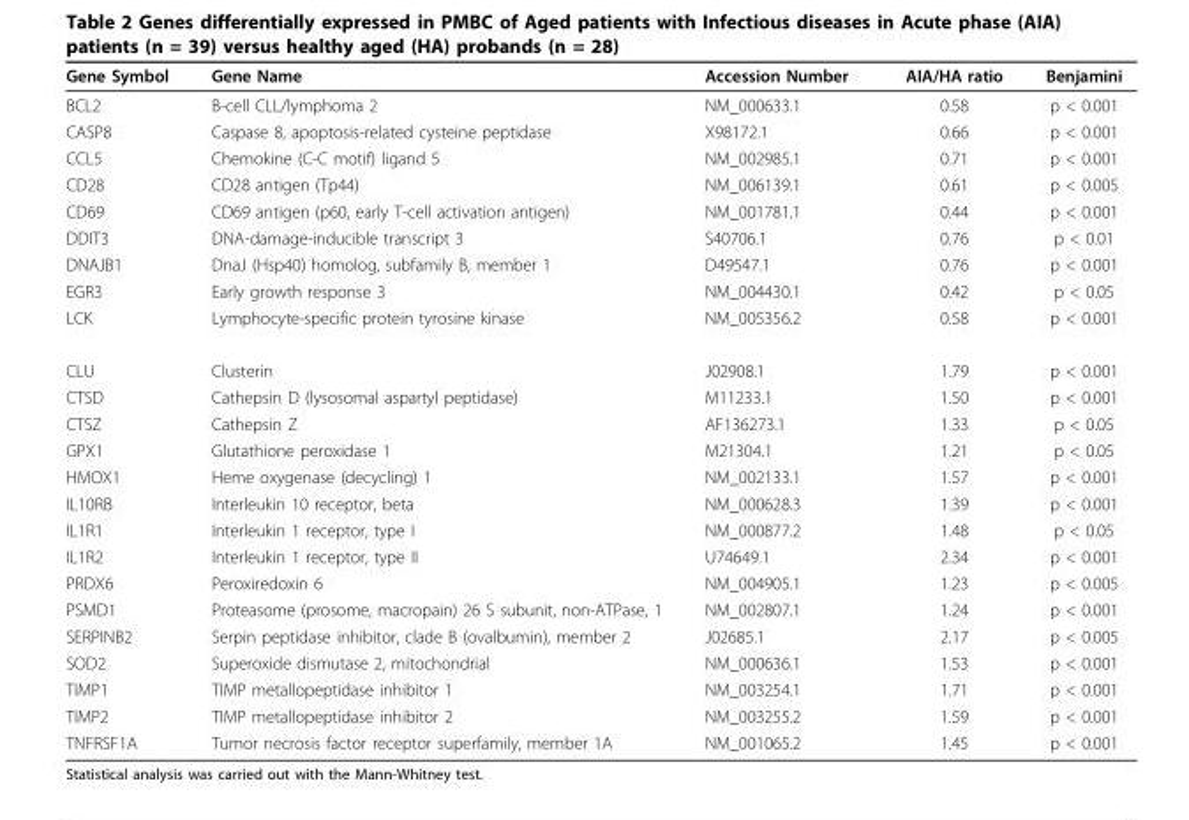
<table><thead><tr><td>Gene Symbol</td><td>Gene Name</td><td>Accession Number</td><td>AIA/HA ratio</td><td>Benjamini</td></tr></thead><tbody><tr><td>BCL2</td><td>B-cell CLL/lymphoma 2</td><td>NM_000633.1</td><td>0.58</td><td>p &lt; 0.001</td></tr><tr><td>CASP8</td><td>Caspase 8, apoptosis-related cysteine peptidase</td><td>X98172.1</td><td>0.66</td><td>p &lt; 0.001</td></tr><tr><td>CCL5</td><td>Chemokine (C-C motif) ligand 5</td><td>NM_002985.1</td><td>0.71</td><td>p &lt; 0.001</td></tr><tr><td>CD28</td><td>CD28 antigen (Tp44)</td><td>NM_006139.1</td><td>0.61</td><td>p &lt; 0.005</td></tr><tr><td>CD69</td><td>CD69 antigen (p60, early T-cell activation antigen)</td><td>NM_001781.1</td><td>0.44</td><td>p &lt; 0.001</td></tr><tr><td>DDIT3</td><td>DNA-damage-inducible transcript 3</td><td>S40706.1</td><td>0.76</td><td>p &lt; 0.01</td></tr><tr><td>DNAJB1</td><td>DnaJ (Hsp40) homolog, subfamily B, member 1</td><td>D49547.1</td><td>0.76</td><td>p &lt; 0.001</td></tr><tr><td>EGR3</td><td>Early growth response 3</td><td>NM_004430.1</td><td>0.42</td><td>p &lt; 0.05</td></tr><tr><td>LCK</td><td>Lymphocyte-specific protein tyrosine kinase</td><td>NM_005356.2</td><td>0.58</td><td>p &lt; 0.001</td></tr><tr><td>CLU</td><td>Clusterin</td><td>J02908.1</td><td>1.79</td><td>p &lt; 0.001</td></tr><tr><td>CTSD</td><td>Cathepsin D (lysosomal aspartyl peptidase)</td><td>M11233.1</td><td>1.50</td><td>p &lt; 0.001</td></tr><tr><td>CTSZ</td><td>Cathepsin Z</td><td>AF136273.1</td><td>1.33</td><td>p &lt; 0.05</td></tr><tr><td>GPX1</td><td>Glutathione peroxidase 1</td><td>M21304.1</td><td>1.21</td><td>p &lt; 0.05</td></tr><tr><td>HMOX1</td><td>Heme oxygenase (decycling) 1</td><td>NM_002133.1</td><td>1.57</td><td>p &lt; 0.001</td></tr><tr><td>IL10RB</td><td>Interleukin 10 receptor, beta</td><td>NM_000628.3</td><td>1.39</td><td>p &lt; 0.001</td></tr><tr><td>IL1R1</td><td>Interleukin 1 receptor, type I</td><td>NM_000877.2</td><td>1.48</td><td>p &lt; 0.05</td></tr><tr><td>IL1R2</td><td>Interleukin 1 receptor, type II</td><td>U74649.1</td><td>2.34</td><td>p &lt; 0.001</td></tr><tr><td>PRDX6</td><td>Peroxiredoxin 6</td><td>NM_004905.1</td><td>1.23</td><td>p &lt; 0.005</td></tr><tr><td>PSMD1</td><td>Proteasome (prosome, macropain) 26 S subunit, non-ATPase, 1</td><td>NM_002807.1</td><td>1.24</td><td>p &lt; 0.001</td></tr><tr><td>SERPINB2</td><td>Serpin peptidase inhibitor, clade B (ovalbumin), member 2</td><td>J02685.1</td><td>2.17</td><td>p &lt; 0.005</td></tr><tr><td>SOD2</td><td>Superoxide dismutase 2, mitochondrial</td><td>NM_000636.1</td><td>1.53</td><td>p &lt; 0.001</td></tr><tr><td>TIMP1</td><td>TIMP metallopeptidase inhibitor 1</td><td>NM_003254.1</td><td>1.71</td><td>p &lt; 0.001</td></tr><tr><td>TIMP2</td><td>TIMP metallopeptidase inhibitor 2</td><td>NM_003255.2</td><td>1.59</td><td>p &lt; 0.001</td></tr><tr><td>TNFRSF1A</td><td>Tumor necrosis factor receptor superfamily, member 1A</td><td>NM_001065.2</td><td>1.45</td><td>p &lt; 0.001</td></tr></tbody></table>